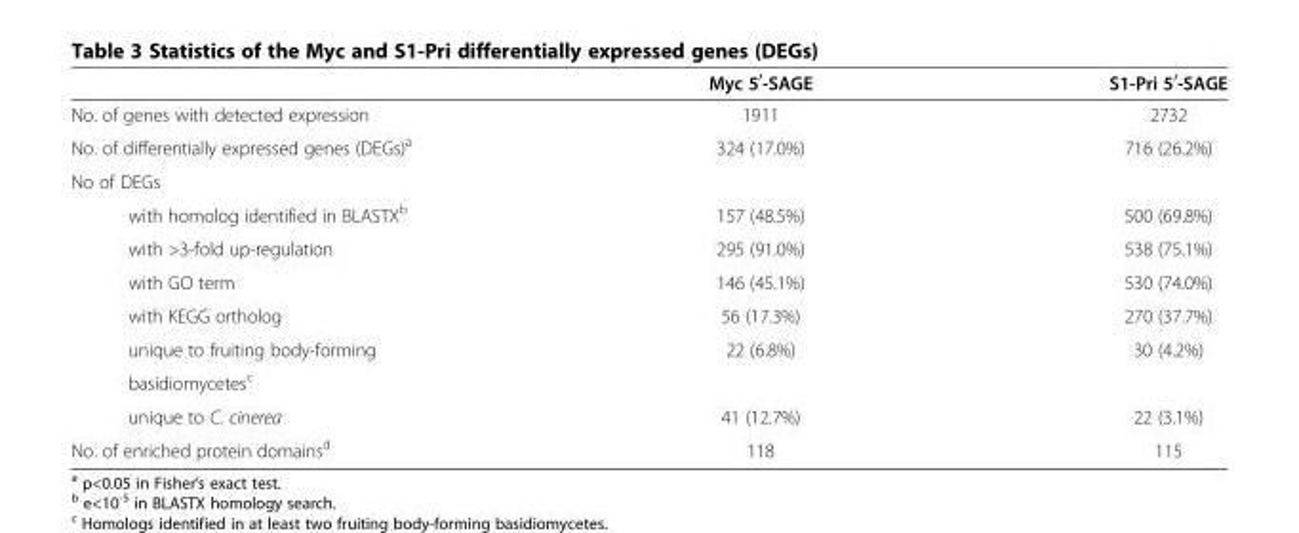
<table><thead><tr><td></td><td>Myc 5<sup>′</sup>-SAGE</td><td>S1-Pri 5<sup>′</sup>-SAGE</td></tr></thead><tbody><tr><td>No. of genes with detected expression</td><td>1911</td><td>2732</td></tr><tr><td>No. of differentially expressed genes (DEGs)<sup>a</sup></td><td>324 (17.0%)</td><td>716 (26.2%)</td></tr><tr><td colspan="3">No of DEGs</td></tr><tr><td>with homolog identified in BLASTX<sup>b</sup></td><td>157 (48.5%)</td><td>500 (69.8%)</td></tr><tr><td>with &gt;3-fold up-regulation</td><td>295 (91.0%)</td><td>538 (75.1%)</td></tr><tr><td>with GO term</td><td>146 (45.1%)</td><td>530 (74.0%)</td></tr><tr><td>with KEGG ortholog</td><td>56 (17.3%)</td><td>270 (37.7%)</td></tr><tr><td>unique to fruiting body-forming</td><td rowspan="2">22 (6.8%)</td><td rowspan="2">30 (4.2%)</td></tr><tr><td>basidiomycetes<sup>c</sup></td></tr><tr><td>unique to C. cinerea</td><td>41 (12.7%)</td><td>22 (3.1%)</td></tr><tr><td>No. of enriched protein domains<sup>d</sup></td><td>118</td><td>115</td></tr></tbody></table>